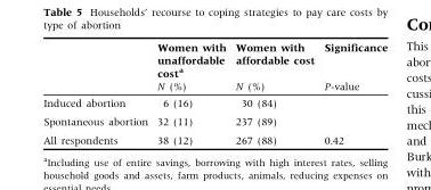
<table><thead><tr><td rowspan="2"></td><td rowspan="2">Women with unaffordable cost<sup>a</sup> N (%)</td><td rowspan="2">Women with affordable cost N (%)</td><td rowspan="2">Significance P-value</td></tr><tr></tr></thead><tbody><tr><td>Induced abortion</td><td>6 (16)</td><td>30 (84)</td><td></td></tr><tr><td>Spontaneous abortion</td><td>32 (11)</td><td>237 (89)</td><td></td></tr><tr><td>All respondents</td><td>38 (12)</td><td>267 (88)</td><td>0.42</td></tr></tbody></table>